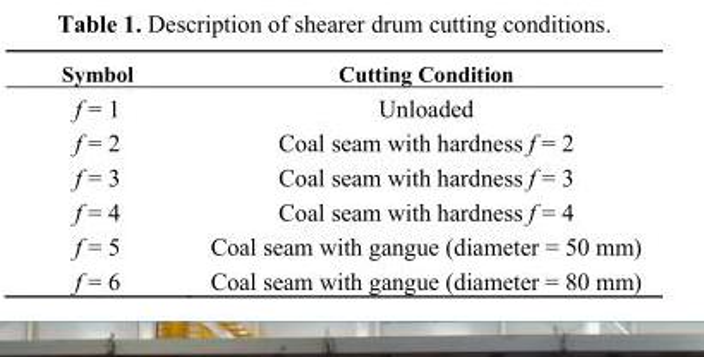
<table><thead><tr><td>Symbol</td><td>Cutting Condition</td></tr></thead><tbody><tr><td>f = 1</td><td>Unloaded</td></tr><tr><td>f = 2</td><td>Coal seam with hardness f = 2</td></tr><tr><td>f = 3</td><td>Coal seam with hardness f = 3</td></tr><tr><td>f = 4</td><td>Coal seam with hardness f = 4</td></tr><tr><td>f = 5</td><td>Coal seam with gangue (diameter = 50 mm)</td></tr><tr><td>f = 6</td><td>Coal seam with gangue (diameter = 80 mm)</td></tr></tbody></table>